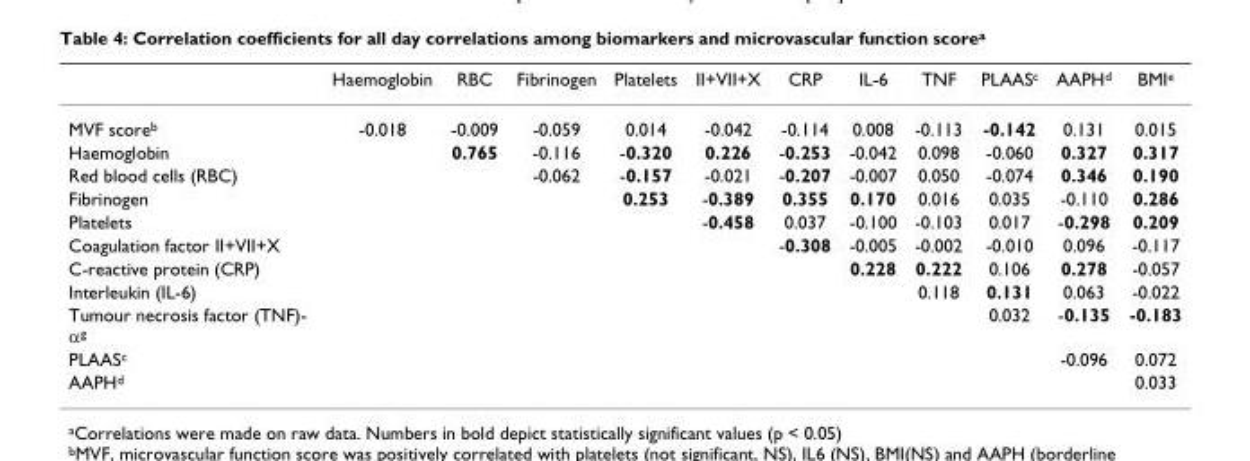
<table><thead><tr><td></td><td>Haemoglobin</td><td>RBC</td><td>Fibrinogen</td><td>Platelets</td><td>II+VII+X</td><td>CRP</td><td>IL-6</td><td>TNF</td><td>PLAAS<sup>c</sup></td><td>AAPH<sup>d</sup></td><td>BMI<sup>e</sup></td></tr></thead><tbody><tr><td>MVF score<sup>b</sup></td><td>-0.018</td><td>-0.009</td><td>-0.059</td><td>0.014</td><td>-0.042</td><td>-0.114</td><td>0.008</td><td>-0.113</td><td>-0.142</td><td>0.131</td><td>0.015</td></tr><tr><td>Haemoglobin</td><td></td><td>0.765</td><td>-0.116</td><td>-0.320</td><td>0.226</td><td>-0.253</td><td>-0.042</td><td>0.098</td><td>-0.060</td><td>0.327</td><td>0.317</td></tr><tr><td>Red blood cells (RBC)</td><td></td><td></td><td>-0.062</td><td>-0.157</td><td>-0.021</td><td>-0.207</td><td>-0.007</td><td>0.050</td><td>-0.074</td><td>0.346</td><td>0.190</td></tr><tr><td>Fibrinogen</td><td></td><td></td><td></td><td>0.253</td><td>-0.389</td><td>0.355</td><td>0.170</td><td>0.016</td><td>0.035</td><td>-0.110</td><td>0.286</td></tr><tr><td>Platelets</td><td></td><td></td><td></td><td></td><td>-0.458</td><td>0.037</td><td>-0.100</td><td>-0.103</td><td>0.017</td><td>-0.298</td><td>0.209</td></tr><tr><td>Coagulation factor II+VII+X</td><td></td><td></td><td></td><td></td><td></td><td>-0.308</td><td>-0.005</td><td>-0.002</td><td>-0.010</td><td>0.096</td><td>-0.117</td></tr><tr><td>C-reactive protein (CRP)</td><td></td><td></td><td></td><td></td><td></td><td></td><td>0.228</td><td>0.222</td><td>0.106</td><td>0.278</td><td>-0.057</td></tr><tr><td>Interleukin (IL-6)</td><td></td><td></td><td></td><td></td><td></td><td></td><td></td><td>0.118</td><td>0.131</td><td>0.063</td><td>-0.022</td></tr><tr><td>Tumour necrosis factor (TNF)- α<sup>g</sup></td><td></td><td></td><td></td><td></td><td></td><td></td><td></td><td></td><td>0.032</td><td>-0.135</td><td>-0.183</td></tr><tr><td>PLAAS<sup>c</sup></td><td></td><td></td><td></td><td></td><td></td><td></td><td></td><td></td><td></td><td>-0.096</td><td>0.072</td></tr><tr><td>AAPH<sup>d</sup></td><td></td><td></td><td></td><td></td><td></td><td></td><td></td><td></td><td></td><td></td><td>0.033</td></tr></tbody></table>